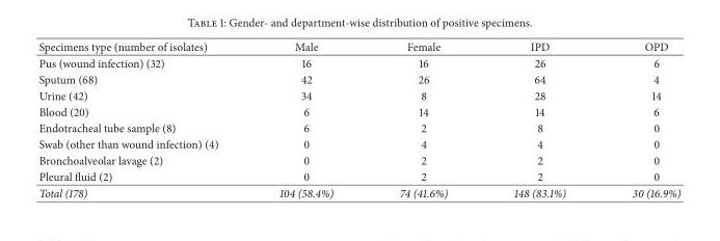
<table><thead><tr><td>Specimens type (number of isolates)</td><td>Male</td><td>Female</td><td>IPD</td><td>OPD</td></tr></thead><tbody><tr><td>Pus (wound infection) (32)</td><td>16</td><td>16</td><td>26</td><td>6</td></tr><tr><td>Sputum (68)</td><td>42</td><td>26</td><td>64</td><td>4</td></tr><tr><td>Urine (42)</td><td>34</td><td>8</td><td>28</td><td>14</td></tr><tr><td>Blood (20)</td><td>6</td><td>14</td><td>14</td><td>6</td></tr><tr><td>Endotracheal tube sample (8)</td><td>6</td><td>2</td><td>8</td><td>0</td></tr><tr><td>Swab (other than wound infection) (4)</td><td>0</td><td>4</td><td>4</td><td>0</td></tr><tr><td>Bronchoalveolar lavage (2)</td><td>0</td><td>2</td><td>2</td><td>0</td></tr><tr><td>Pleural fluid (2)</td><td>0</td><td>2</td><td>2</td><td>0</td></tr><tr><td>Total (178)</td><td>104 (58.4%)</td><td>74 (41.6%)</td><td>148 (83.1%)</td><td>30 (16.9%)</td></tr></tbody></table>